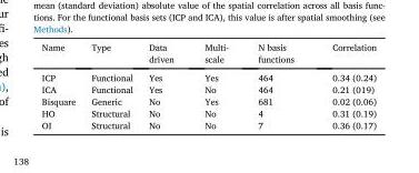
<table><thead><tr><td>Name</td><td>Type</td><td>Data driven</td><td>Multi- scale</td><td>N basis functions</td><td>Correlation</td></tr></thead><tbody><tr><td>ICP</td><td>Functional</td><td>Yes</td><td>Yes</td><td>464</td><td>0.34 (0.24)</td></tr><tr><td>ICA</td><td>Functional</td><td>Yes</td><td>No</td><td>464</td><td>0.21 (019)</td></tr><tr><td>Bisquare</td><td>Generic</td><td>No</td><td>Yes</td><td>681</td><td>0.02 (0.06)</td></tr><tr><td>HO</td><td>Structural</td><td>No</td><td>No</td><td>4</td><td>0.31 (0.19)</td></tr><tr><td>OI</td><td>Structural</td><td>No</td><td>No</td><td>7</td><td>0.36 (0.17)</td></tr></tbody></table>